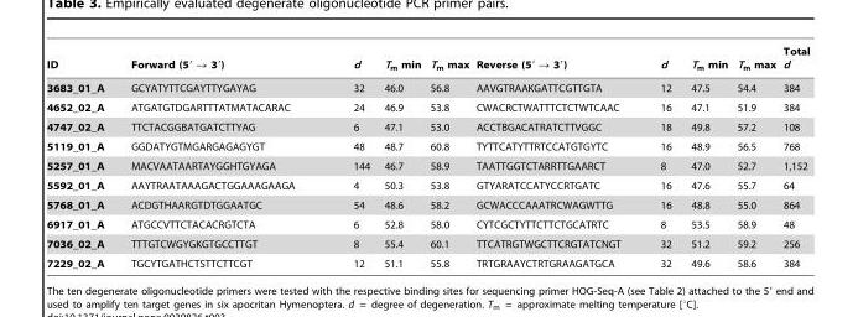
<table><thead><tr><td>ID</td><td>Forward (5′ → 3′)</td><td>d</td><td>T<sub>m</sub> min</td><td>T<sub>m</sub> max</td><td>Reverse (5′ → 3′)</td><td>d</td><td>T<sub>m</sub> min</td><td>T<sub>m</sub> max</td><td>Total d</td></tr></thead><tbody><tr><td>3683_01_A</td><td>GCYATYTTCGAYTTYGAYAG</td><td>32</td><td>46.0</td><td>56.8</td><td>AAVGTRAAKGATTCGTTGTA</td><td>12</td><td>47.5</td><td>54.4</td><td>384</td></tr><tr><td>4652_02_A</td><td>ATGATGTDGARTTTATMATACARAC</td><td>24</td><td>46.9</td><td>53.8</td><td>CWACRCTWATTTCTCTWTCAAC</td><td>16</td><td>47.1</td><td>51.9</td><td>384</td></tr><tr><td>4747_02_A</td><td>TTCTACGGBATGATCTTYAG</td><td>6</td><td>47.1</td><td>53.0</td><td>ACCTBGACATRATCTTVGGC</td><td>18</td><td>49.8</td><td>57.2</td><td>108</td></tr><tr><td>5119_01_A</td><td>GGDATYGTMGARGAGAGYGT</td><td>48</td><td>48.7</td><td>60.8</td><td>TYTTCATYTTRTCCATGTGYTC</td><td>16</td><td>48.9</td><td>56.5</td><td>768</td></tr><tr><td>5257_01_A</td><td>MACVAATAARTAYGGHTGYAGA</td><td>144</td><td>46.7</td><td>58.9</td><td>TAATTGGTCTARRTTGAARCT</td><td>8</td><td>47.0</td><td>52.7</td><td>1,152</td></tr><tr><td>5592_01_A</td><td>AAYTRAATAAAGACTGGAAAGAAGA</td><td>4</td><td>50.3</td><td>53.8</td><td>GTYARATCCATYCCRTGATC</td><td>16</td><td>47.6</td><td>55.7</td><td>64</td></tr><tr><td>5768_01_A</td><td>ACDGTHAARGTDTGGAATGC</td><td>54</td><td>48.6</td><td>58.2</td><td>GCWACCCAAATRCWAGWTTG</td><td>16</td><td>48.8</td><td>55.0</td><td>864</td></tr><tr><td>6917_01_A</td><td>ATGCCVTTCTACACRGTCTA</td><td>6</td><td>52.8</td><td>58.0</td><td>CYTCGCTYTTCTTCTGCATRTC</td><td>8</td><td>53.5</td><td>58.9</td><td>48</td></tr><tr><td>7036_02_A</td><td>TTTGTCWGYGKGTGCCTTGT</td><td>8</td><td>55.4</td><td>60.1</td><td>TTCATRGTWGCTTCRGTATCNGT</td><td>32</td><td>51.2</td><td>59.2</td><td>256</td></tr><tr><td>7229_02_A</td><td>TGCYTGATHCTSTTCTTCGT</td><td>12</td><td>51.1</td><td>55.8</td><td>TRTGRAAYCTRTGRAAGATGCA</td><td>32</td><td>49.6</td><td>58.6</td><td>384</td></tr></tbody></table>